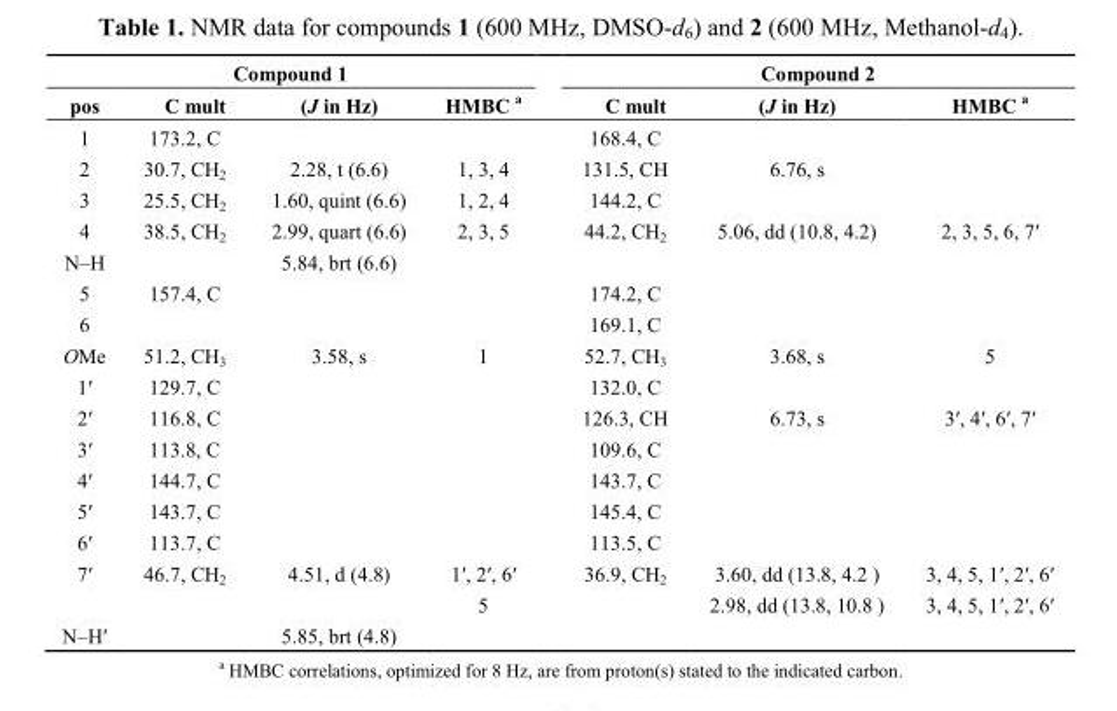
<table><thead><tr><td colspan="4">Compound 1</td><td colspan="3">Compound 2</td></tr><tr><td>pos</td><td>C mult</td><td>(J in Hz)</td><td>HMBC <sup>a</sup></td><td>C mult</td><td>(J in Hz)</td><td>HMBC <sup>a</sup></td></tr></thead><tbody><tr><td>1</td><td>173.2, C</td><td></td><td></td><td>168.4, C</td><td></td><td></td></tr><tr><td>2</td><td>30.7, CH<sub>2</sub></td><td>2.28, t (6.6)</td><td>1, 3, 4</td><td>131.5, CH</td><td>6.76, s</td><td></td></tr><tr><td>3</td><td>25.5, CH<sub>2</sub></td><td>1.60, quint (6.6)</td><td>1, 2, 4</td><td>144.2, C</td><td></td><td></td></tr><tr><td>4</td><td>38.5, CH<sub>2</sub></td><td>2.99, quart (6.6)</td><td>2, 3, 5</td><td>44.2, CH<sub>2</sub></td><td>5.06, dd (10.8, 4.2)</td><td>2, 3, 5, 6, 7′</td></tr><tr><td>N–H</td><td></td><td>5.84, brt (6.6)</td><td></td><td></td><td></td><td></td></tr><tr><td>5</td><td>157.4, C</td><td></td><td></td><td>174.2, C</td><td></td><td></td></tr><tr><td>6</td><td></td><td></td><td></td><td>169.1, C</td><td></td><td></td></tr><tr><td>OMe</td><td>51.2, CH<sub>3</sub></td><td>3.58, s</td><td>1</td><td>52.7, CH<sub>3</sub></td><td>3.68, s</td><td>5</td></tr><tr><td>1′</td><td>129.7, C</td><td></td><td></td><td>132.0, C</td><td></td><td></td></tr><tr><td>2′</td><td>116.8, C</td><td></td><td></td><td>126.3, CH</td><td>6.73, s</td><td>3′, 4′, 6′, 7′</td></tr><tr><td>3′</td><td>113.8, C</td><td></td><td></td><td>109.6, C</td><td></td><td></td></tr><tr><td>4′</td><td>144.7, C</td><td></td><td></td><td>143.7, C</td><td></td><td></td></tr><tr><td>5′</td><td>143.7, C</td><td></td><td></td><td>145.4, C</td><td></td><td></td></tr><tr><td>6′</td><td>113.7, C</td><td></td><td></td><td>113.5, C</td><td></td><td></td></tr><tr><td rowspan="2">7′</td><td>46.7, CH<sub>2</sub></td><td>4.51, d (4.8)</td><td>1′, 2′, 6′</td><td>36.9, CH<sub>2</sub></td><td>3.60, dd (13.8, 4.2 )</td><td>3, 4, 5, 1′, 2′, 6′</td></tr><tr><td></td><td></td><td>5</td><td></td><td>2.98, dd (13.8, 10.8 )</td><td>3, 4, 5, 1′, 2′, 6′</td></tr><tr><td>N–H′</td><td></td><td>5.85, brt (4.8)</td><td></td><td></td><td></td><td></td></tr></tbody></table>